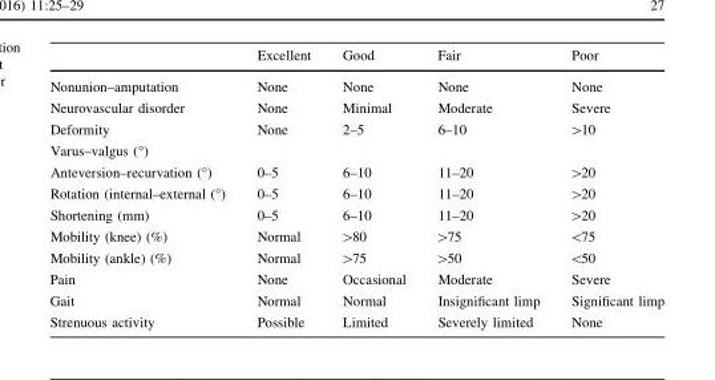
<table><thead><tr><td></td><td>Excellent</td><td>Good</td><td>Fair</td><td>Poor</td></tr></thead><tbody><tr><td>Nonunion–amputation</td><td>None</td><td>None</td><td>None</td><td>None</td></tr><tr><td>Neurovascular disorder</td><td>None</td><td>Minimal</td><td>Moderate</td><td>Severe</td></tr><tr><td>Deformity Varus–valgus (°)</td><td>None</td><td>2–5</td><td>6–10</td><td>&gt;10</td></tr><tr><td>Anteversion–recurvation (°)</td><td>0–5</td><td>6–10</td><td>11–20</td><td>&gt;20</td></tr><tr><td>Rotation (internal–external (°)</td><td>0–5</td><td>6–10</td><td>11–20</td><td>&gt;20</td></tr><tr><td>Shortening (mm)</td><td>0–5</td><td>6–10</td><td>11–20</td><td>&gt;20</td></tr><tr><td>Mobility (knee) (%)</td><td>Normal</td><td>&gt;80</td><td>&gt;75</td><td>&lt;75</td></tr><tr><td>Mobility (ankle) (%)</td><td>Normal</td><td>&gt;75</td><td>&gt;50</td><td>&lt;50</td></tr><tr><td>Pain</td><td>None</td><td>Occasional</td><td>Moderate</td><td>Severe</td></tr><tr><td>Gait</td><td>Normal</td><td>Normal</td><td>Insignificant limp</td><td>Significant limp</td></tr><tr><td>Strenuous activity</td><td>Possible</td><td>Limited</td><td>Severely limited</td><td>None</td></tr></tbody></table>